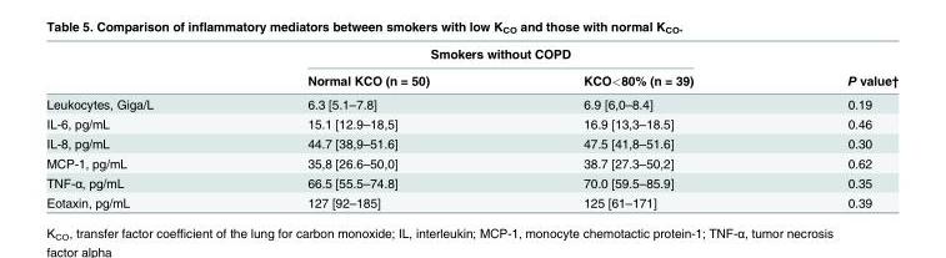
<table><thead><tr><td rowspan="2"></td><td colspan="2">Smokers without COPD</td><td rowspan="2">P value†</td></tr><tr><td>Normal KCO (n = 50)</td><td>KCO&lt;80% (n = 39)</td></tr></thead><tbody><tr><td>Leukocytes, Giga/L</td><td>6.3 [5.1–7.8]</td><td>6.9 [6,0–8.4]</td><td>0.19</td></tr><tr><td>IL-6, pg/mL</td><td>15.1 [12.9–18,5]</td><td>16.9 [13,3–18.5]</td><td>0.46</td></tr><tr><td>IL-8, pg/mL</td><td>44.7 [38,9–51.6]</td><td>47.5 [41,8–51.6]</td><td>0.30</td></tr><tr><td>MCP-1, pg/mL</td><td>35,8 [26.6–50,0]</td><td>38.7 [27.3–50,2]</td><td>0.62</td></tr><tr><td>TNF-α, pg/mL</td><td>66.5 [55.5–74.8]</td><td>70.0 [59.5–85.9]</td><td>0.35</td></tr><tr><td>Eotaxin, pg/mL</td><td>127 [92–185]</td><td>125 [61–171]</td><td>0.39</td></tr></tbody></table>